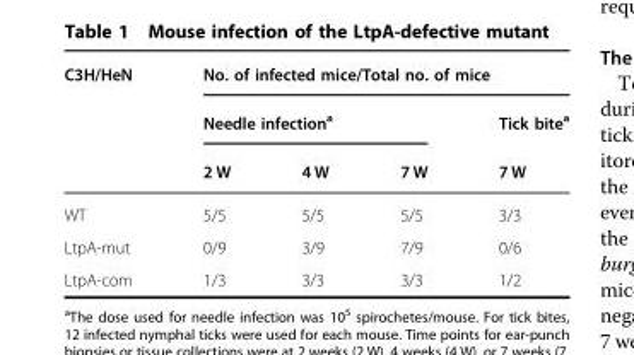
<table><thead><tr><td rowspan="3">C3H/HeN</td><td colspan="4">No. of infected mice/Total no. of mice</td></tr><tr><td colspan="3">Needle infection<sup>a</sup></td><td rowspan="2">Tick bite<sup>a</sup> 7 W</td></tr><tr><td>2 W</td><td>4 W</td><td>7 W</td></tr></thead><tbody><tr><td>WT</td><td>5/5</td><td>5/5</td><td>5/5</td><td>3/3</td></tr><tr><td>LtpA-mut</td><td>0/9</td><td>3/9</td><td>7/9</td><td>0/6</td></tr><tr><td>LtpA-com</td><td>1/3</td><td>3/3</td><td>3/3</td><td>1/2</td></tr></tbody></table>